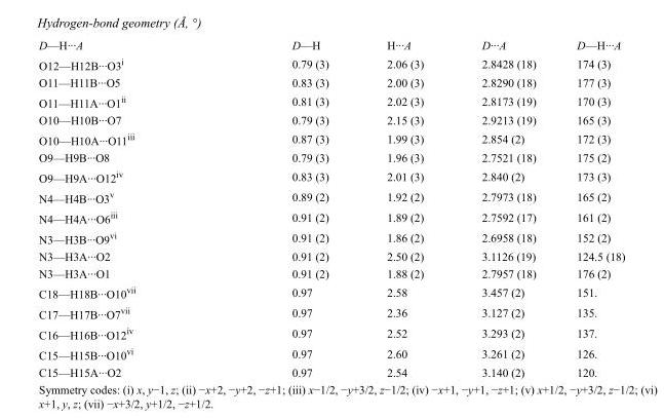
<table><tbody><tr><td>D—H···A</td><td>D—H</td><td>H···A</td><td>D···A</td><td>D—H···A</td></tr><tr><td>O12—H12B···O3<sup>i</sup></td><td>0.79 (3)</td><td>2.06 (3)</td><td>2.8428 (18)</td><td>174 (3)</td></tr><tr><td>O11—H11B···O5</td><td>0.83 (3)</td><td>2.00 (3)</td><td>2.8290 (18)</td><td>177 (3)</td></tr><tr><td>O11—H11A···O1<sup>ii</sup></td><td>0.81 (3)</td><td>2.02 (3)</td><td>2.8173 (19)</td><td>170 (3)</td></tr><tr><td>O10—H10B···O7</td><td>0.79 (3)</td><td>2.15 (3)</td><td>2.9213 (19)</td><td>165 (3)</td></tr><tr><td>O10—H10A···O11<sup>iii</sup></td><td>0.87 (3)</td><td>1.99 (3)</td><td>2.854 (2)</td><td>172 (3)</td></tr><tr><td>O9—H9B···O8</td><td>0.79 (3)</td><td>1.96 (3)</td><td>2.7521 (18)</td><td>175 (2)</td></tr><tr><td>O9—H9A···O12<sup>iv</sup></td><td>0.83 (3)</td><td>2.01 (3)</td><td>2.840 (2)</td><td>173 (3)</td></tr><tr><td>N4—H4B···O3<sup>v</sup></td><td>0.89 (2)</td><td>1.92 (2)</td><td>2.7973 (18)</td><td>165 (2)</td></tr><tr><td>N4—H4A···O6<sup>iii</sup></td><td>0.91 (2)</td><td>1.89 (2)</td><td>2.7592 (17)</td><td>161 (2)</td></tr><tr><td>N3—H3B···O9<sup>vi</sup></td><td>0.91 (2)</td><td>1.86 (2)</td><td>2.6958 (18)</td><td>152 (2)</td></tr><tr><td>N3—H3A···O2</td><td>0.91 (2)</td><td>2.50 (2)</td><td>3.1126 (19)</td><td>124.5 (18)</td></tr><tr><td>N3—H3A···O1</td><td>0.91 (2)</td><td>1.88 (2)</td><td>2.7957 (18)</td><td>176 (2)</td></tr><tr><td>C18—H18B···O10<sup>vii</sup></td><td>0.97</td><td>2.58</td><td>3.457 (2)</td><td>151.</td></tr><tr><td>C17—H17B···O7<sup>vii</sup></td><td>0.97</td><td>2.36</td><td>3.127 (2)</td><td>135.</td></tr><tr><td>C16—H16B···O12<sup>iv</sup></td><td>0.97</td><td>2.52</td><td>3.293 (2)</td><td>137.</td></tr><tr><td>C15—H15B···O10<sup>vi</sup></td><td>0.97</td><td>2.60</td><td>3.261 (2)</td><td>126.</td></tr><tr><td>C15—H15A···O2</td><td>0.97</td><td>2.54</td><td>3.140 (2)</td><td>120.</td></tr></tbody></table>